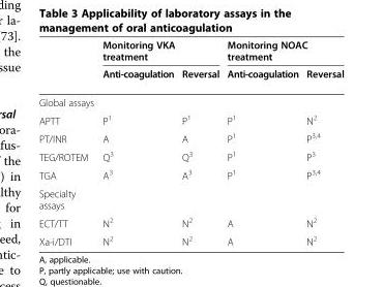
<table><thead><tr><td rowspan="2"></td><td colspan="2">Monitoring VKA treatment</td><td colspan="2">Monitoring NOAC treatment</td></tr><tr><td>Anti-coagulation</td><td>Reversal</td><td>Anti-coagulation</td><td>Reversal</td></tr></thead><tbody><tr><td colspan="5">Global assays</td></tr><tr><td>APTT</td><td>P<sup>1</sup></td><td>P<sup>1</sup></td><td>P<sup>1</sup></td><td>N<sup>2</sup></td></tr><tr><td>PT/INR</td><td>A</td><td>A</td><td>P<sup>1</sup></td><td>P<sup>3,4</sup></td></tr><tr><td>TEG/ROTEM</td><td>Q<sup>3</sup></td><td>Q<sup>3</sup></td><td>P<sup>1</sup></td><td>P<sup>3</sup></td></tr><tr><td>TGA</td><td>A<sup>3</sup></td><td>A<sup>3</sup></td><td>P<sup>1</sup></td><td>P<sup>3,4</sup></td></tr><tr><td colspan="5">Specialty assays</td></tr><tr><td>ECT/TT</td><td>N<sup>2</sup></td><td>N<sup>2</sup></td><td>A</td><td>N<sup>2</sup></td></tr><tr><td>Xa-i/DTI</td><td>N<sup>2</sup></td><td>N<sup>2</sup></td><td>A</td><td>N<sup>2</sup></td></tr></tbody></table>